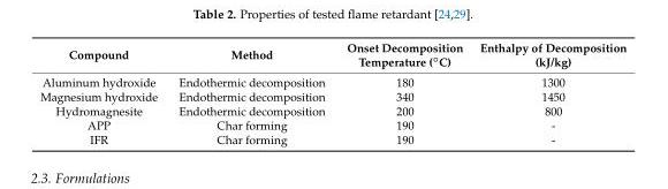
<table><thead><tr><td>Compound</td><td>Method</td><td>Onset Decomposition Temperature (◦C)</td><td>Enthalpy of Decomposition (kJ/kg)</td></tr></thead><tbody><tr><td>Aluminum hydroxide</td><td>Endothermic decomposition</td><td>180</td><td>1300</td></tr><tr><td>Magnesium hydroxide</td><td>Endothermic decomposition</td><td>340</td><td>1450</td></tr><tr><td>Hydromagnesite</td><td>Endothermic decomposition</td><td>200</td><td>800</td></tr><tr><td>APP</td><td>Char forming</td><td>190</td><td>-</td></tr><tr><td>IFR</td><td>Char forming</td><td>190</td><td>-</td></tr></tbody></table>